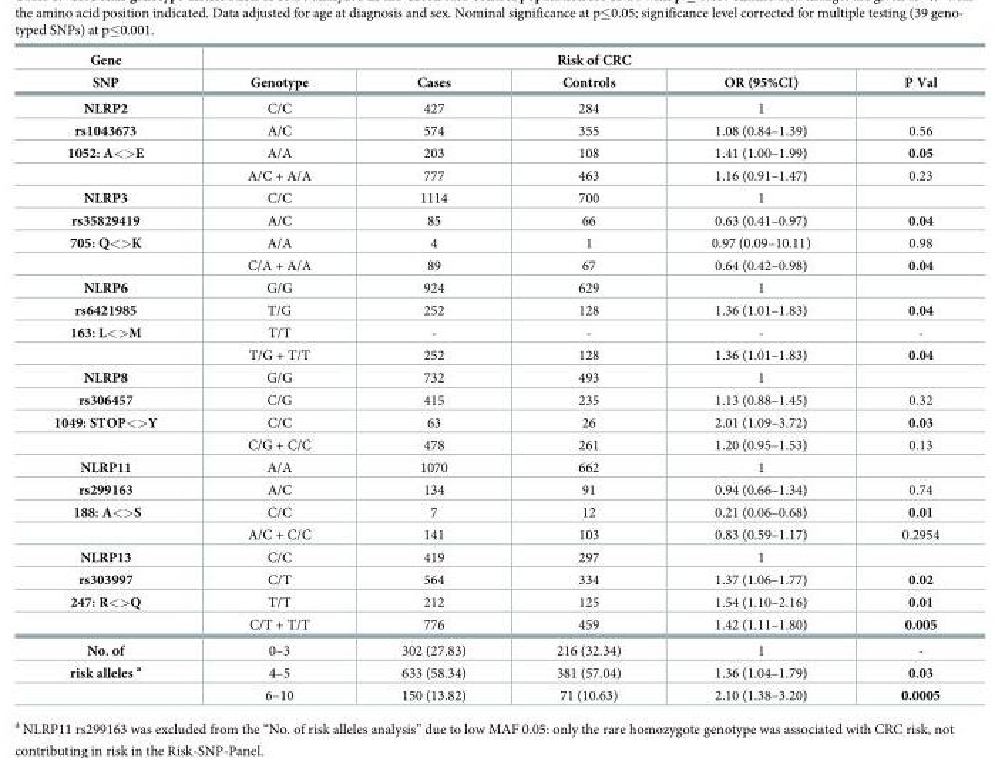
<table><thead><tr><td rowspan="2">Gene SNP</td><td colspan="5">Risk of CRC</td></tr><tr><td>Genotype</td><td>Cases</td><td>Controls</td><td>OR (95%CI)</td><td>P Val</td></tr></thead><tbody><tr><td>NLRP2</td><td>C/C</td><td>427</td><td>284</td><td>1</td><td></td></tr><tr><td>rs1043673</td><td>A/C</td><td>574</td><td>355</td><td>1.08 (0.84–1.39)</td><td>0.56</td></tr><tr><td rowspan="2">1052: A&lt;&gt;E</td><td>A/A</td><td>203</td><td>108</td><td>1.41 (1.00–1.99)</td><td>0.05</td></tr><tr><td>A/C + A/A</td><td>777</td><td>463</td><td>1.16 (0.91–1.47)</td><td>0.23</td></tr><tr><td>NLRP3</td><td>C/C</td><td>1114</td><td>700</td><td>1</td><td></td></tr><tr><td>rs35829419</td><td>A/C</td><td>85</td><td>66</td><td>0.63 (0.41–0.97)</td><td>0.04</td></tr><tr><td rowspan="2">705: Q&lt;&gt;K</td><td>A/A</td><td>4</td><td>1</td><td>0.97 (0.09–10.11)</td><td>0.98</td></tr><tr><td>C/A + A/A</td><td>89</td><td>67</td><td>0.64 (0.42–0.98)</td><td>0.04</td></tr><tr><td>NLRP6</td><td>G/G</td><td>924</td><td>629</td><td>1</td><td></td></tr><tr><td>rs6421985</td><td>T/G</td><td>252</td><td>128</td><td>1.36 (1.01–1.83)</td><td>0.04</td></tr><tr><td rowspan="2">163: L&lt;&gt;M</td><td>T/T</td><td>-</td><td>-</td><td>-</td><td>-</td></tr><tr><td>T/G + T/T</td><td>252</td><td>128</td><td>1.36 (1.01–1.83)</td><td>0.04</td></tr><tr><td>NLRP8</td><td>G/G</td><td>732</td><td>493</td><td>1</td><td></td></tr><tr><td>rs306457</td><td>C/G</td><td>415</td><td>235</td><td>1.13 (0.88–1.45)</td><td>0.32</td></tr><tr><td rowspan="2">1049: STOP&lt;&gt;Y</td><td>C/C</td><td>63</td><td>26</td><td>2.01 (1.09–3.72)</td><td>0.03</td></tr><tr><td>C/G + C/C</td><td>478</td><td>261</td><td>1.20 (0.95–1.53)</td><td>0.13</td></tr><tr><td>NLRP11</td><td>A/A</td><td>1070</td><td>662</td><td>1</td><td></td></tr><tr><td>rs299163</td><td>A/C</td><td>134</td><td>91</td><td>0.94 (0.66–1.34)</td><td>0.74</td></tr><tr><td rowspan="2">188: A&lt;&gt;S</td><td>C/C</td><td>7</td><td>12</td><td>0.21 (0.06–0.68)</td><td>0.01</td></tr><tr><td>A/C + C/C</td><td>141</td><td>103</td><td>0.83 (0.59–1.17)</td><td>0.2954</td></tr><tr><td>NLRP13</td><td>C/C</td><td>419</td><td>297</td><td>1</td><td></td></tr><tr><td>rs303997</td><td>C/T</td><td>564</td><td>334</td><td>1.37 (1.06–1.77)</td><td>0.02</td></tr><tr><td rowspan="2">247: R&lt;&gt;Q</td><td>T/T</td><td>212</td><td>125</td><td>1.54 (1.10–2.16)</td><td>0.01</td></tr><tr><td>C/T + T/T</td><td>776</td><td>459</td><td>1.42 (1.11–1.80)</td><td>0.005</td></tr><tr><td>No. of</td><td>0–3</td><td>302 (27.83)</td><td>216 (32.34)</td><td>1</td><td>-</td></tr><tr><td rowspan="2">risk alleles <sup>a</sup></td><td>4–5</td><td>633 (58.34)</td><td>381 (57.04)</td><td>1.36 (1.04–1.79)</td><td>0.03</td></tr><tr><td>6–10</td><td>150 (13.82)</td><td>71 (10.63)</td><td>2.10 (1.38–3.20)</td><td>0.0005</td></tr></tbody></table>